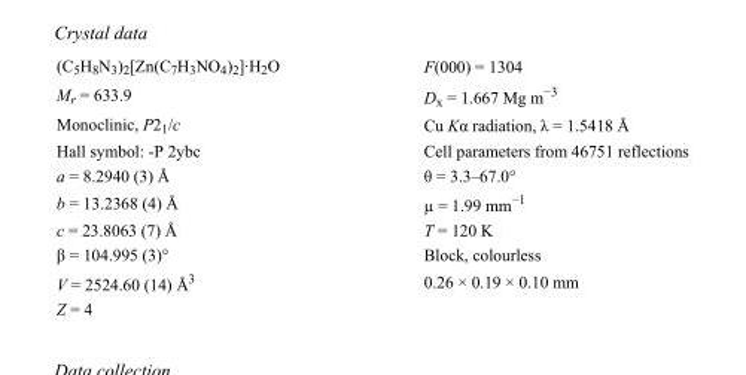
<table><tbody><tr><td>(C<sub>5</sub>H<sub>8</sub>N<sub>3</sub>)<sub>2</sub>[Zn(C<sub>7</sub>H<sub>3</sub>NO<sub>4</sub>)<sub>2</sub>]·H<sub>2</sub>O</td><td>F(000) = 1304</td></tr><tr><td>M<sub>r</sub> = 633.9</td><td>D<sub>x</sub> = 1.667 Mg m<sup>−3</sup></td></tr><tr><td>Monoclinic, P2<sub>1</sub>/c</td><td>Cu Kα radiation, λ = 1.5418 Å</td></tr><tr><td>Hall symbol: -P 2ybc</td><td>Cell parameters from 46751 reflections</td></tr><tr><td>a = 8.2940 (3) Å</td><td>θ = 3.3–67.0°</td></tr><tr><td>b = 13.2368 (4) Å</td><td>µ = 1.99 mm<sup>−1</sup></td></tr><tr><td>c = 23.8063 (7) Å</td><td>T = 120 K</td></tr><tr><td>β = 104.995 (3)°</td><td>Block, colourless</td></tr><tr><td>V = 2524.60 (14) Å<sup>3</sup></td><td>0.26 × 0.19 × 0.10 mm</td></tr><tr><td>Z = 4</td><td></td></tr></tbody></table>